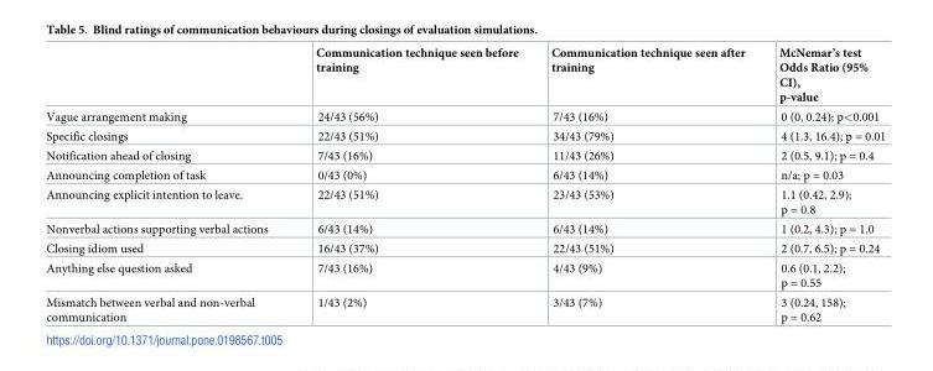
<table><thead><tr><td></td><td>Communication technique seen before training</td><td>Communication technique seen after training</td><td>McNemar’s test Odds Ratio (95% CI), p-value</td></tr></thead><tbody><tr><td>Vague arrangement making</td><td>24/43 (56%)</td><td>7/43 (16%)</td><td>0 (0, 0.24); p&lt;0.001</td></tr><tr><td>Specific closings</td><td>22/43 (51%)</td><td>34/43 (79%)</td><td>4 (1.3, 16.4); p = 0.01</td></tr><tr><td>Notification ahead of closing</td><td>7/43 (16%)</td><td>11/43 (26%)</td><td>2 (0.5, 9.1); p = 0.4</td></tr><tr><td>Announcing completion of task</td><td>0/43 (0%)</td><td>6/43 (14%)</td><td>n/a; p = 0.03</td></tr><tr><td>Announcing explicit intention to leave.</td><td>22/43 (51%)</td><td>23/43 (53%)</td><td>1.1 (0.42, 2.9); p = 0.8</td></tr><tr><td>Nonverbal actions supporting verbal actions</td><td>6/43 (14%)</td><td>6/43 (14%)</td><td>1 (0.2, 4.3); p = 1.0</td></tr><tr><td>Closing idiom used</td><td>16/43 (37%)</td><td>22/43 (51%)</td><td>2 (0.7, 6.5); p = 0.24</td></tr><tr><td>Anything else question asked</td><td>7/43 (16%)</td><td>4/43 (9%)</td><td>0.6 (0.1, 2.2); p = 0.55</td></tr><tr><td>Mismatch between verbal and non-verbal communication</td><td>1/43 (2%)</td><td>3/43 (7%)</td><td>3 (0.24, 158); p = 0.62</td></tr></tbody></table>